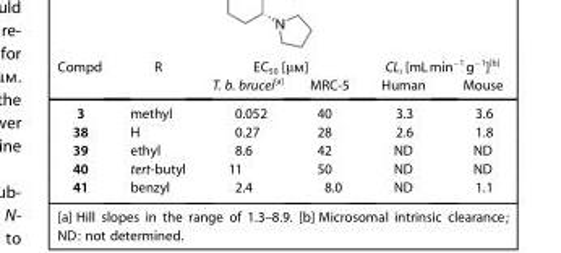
<table><thead><tr><td rowspan="2">Compd</td><td rowspan="2">R</td><td colspan="2">EC<sub>50</sub> [μm]</td><td colspan="2">CL<sub>i</sub> [mLmin<sup>−1</sup>g<sup>−1</sup>][b]</td></tr><tr><td>T. b. brucei[a]</td><td>MRC-5</td><td>Human</td><td>Mouse</td></tr></thead><tbody><tr><td>3</td><td>methyl</td><td>0.052</td><td>40</td><td>3.3</td><td>3.6</td></tr><tr><td>38</td><td>H</td><td>0.27</td><td>28</td><td>2.6</td><td>1.8</td></tr><tr><td>39</td><td>ethyl</td><td>8.6</td><td>42</td><td>ND</td><td>ND</td></tr><tr><td>40</td><td>tert-butyl</td><td>11</td><td>50</td><td>ND</td><td>ND</td></tr><tr><td>41</td><td>benzyl</td><td>2.4</td><td>8.0</td><td>ND</td><td>1.1</td></tr></tbody></table>